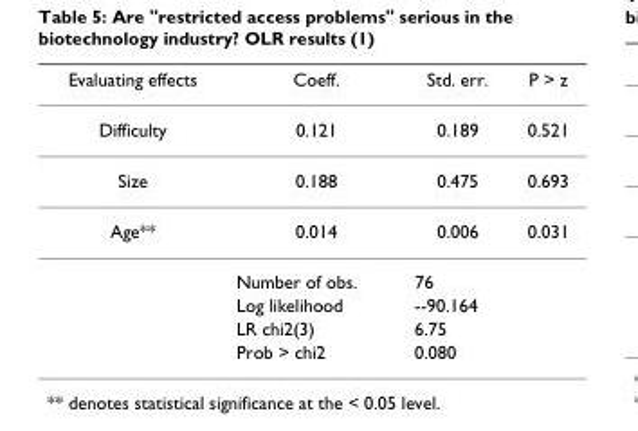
<table><thead><tr><td>Evaluating effects</td><td>Coeff.</td><td>Std. err.</td><td>P &gt; z</td></tr></thead><tbody><tr><td>Difficulty</td><td>0.121</td><td>0.189</td><td>0.521</td></tr><tr><td>Size</td><td>0.188</td><td>0.475</td><td>0.693</td></tr><tr><td rowspan="5">Age**</td><td>0.014</td><td>0.006</td><td>0.031</td></tr><tr><td>Number of obs.</td><td>76</td><td></td></tr><tr><td>Log likelihood</td><td>--90.164</td><td></td></tr><tr><td>LR chi2(3)</td><td>6.75</td><td></td></tr><tr><td>Prob &gt; chi2</td><td>0.080</td><td></td></tr></tbody></table>